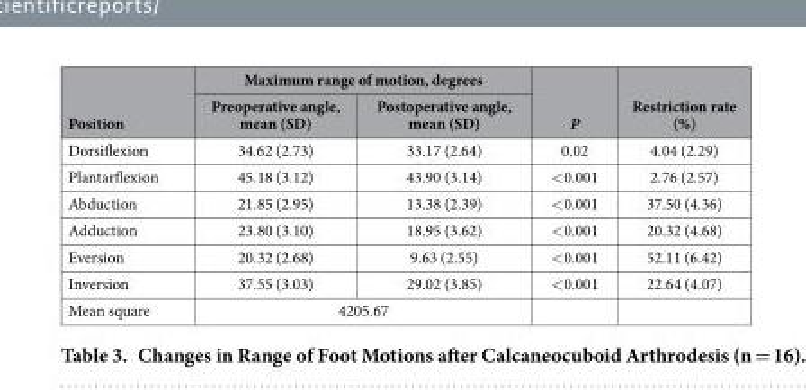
<table><thead><tr><td rowspan="2">Position</td><td colspan="2">Maximum range of motion, degrees</td><td rowspan="2">P</td><td rowspan="2">Restriction rate (%)</td></tr><tr><td>Preoperative angle, mean (SD)</td><td>Postoperative angle, mean (SD)</td></tr></thead><tbody><tr><td>Dorsiflexion</td><td>34.62 (2.73)</td><td>33.17 (2.64)</td><td>0.02</td><td>4.04 (2.29)</td></tr><tr><td>Plantarflexion</td><td>45.18 (3.12)</td><td>43.90 (3.14)</td><td>&lt; 0.001</td><td>2.76 (2.57)</td></tr><tr><td>Abduction</td><td>21.85 (2.95)</td><td>13.38 (2.39)</td><td>&lt; 0.001</td><td>37.50 (4.36)</td></tr><tr><td>Adduction</td><td>23.80 (3.10)</td><td>18.95 (3.62)</td><td>&lt; 0.001</td><td>20.32 (4.68)</td></tr><tr><td>Eversion</td><td>20.32 (2.68)</td><td>9.63 (2.55)</td><td>&lt; 0.001</td><td>52.11 (6.42)</td></tr><tr><td>Inversion</td><td>37.55 (3.03)</td><td>29.02 (3.85)</td><td>&lt; 0.001</td><td>22.64 (4.07)</td></tr><tr><td>Mean square</td><td colspan="2">4205.67</td><td></td><td></td></tr></tbody></table>